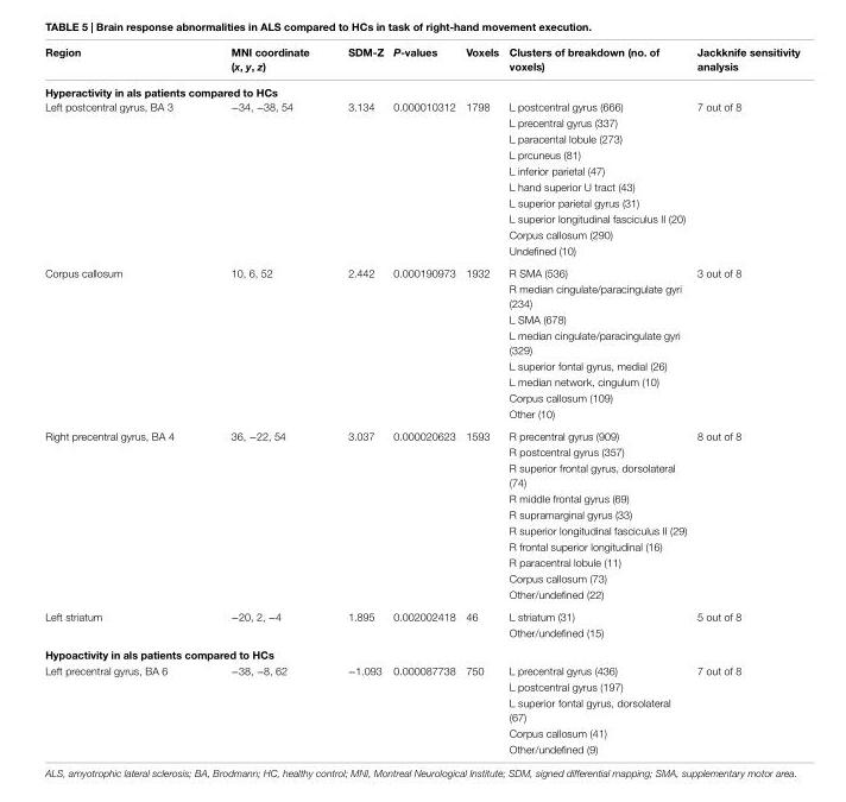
<table><thead><tr><td>region</td><td>Mni coordinate (x, y, z)</td><td>sDM-Z</td><td>P-values</td><td>Voxels</td><td>clusters of breakdown (no. of voxels)</td><td>Jackknife sensitivity analysis</td></tr></thead><tbody><tr><td colspan="7">hyperactivity in als patients compared to hcs</td></tr><tr><td rowspan="10">Left postcentral gyrus, BA 3</td><td>−34, −38, 54</td><td>3.134</td><td>0.000010312</td><td>1798</td><td>L postcentral gyrus (666)</td><td>7 out of 8</td></tr><tr><td></td><td></td><td></td><td></td><td>L precentral gyrus (337)</td><td></td></tr><tr><td></td><td></td><td></td><td></td><td>L paracental lobule (273)</td><td></td></tr><tr><td></td><td></td><td></td><td></td><td>L prcuneus (81)</td><td></td></tr><tr><td></td><td></td><td></td><td></td><td>L inferior parietal (47)</td><td></td></tr><tr><td></td><td></td><td></td><td></td><td>L hand superior U tract (43)</td><td></td></tr><tr><td></td><td></td><td></td><td></td><td>L superior parietal gyrus (31)</td><td></td></tr><tr><td></td><td></td><td></td><td></td><td>L superior longitudinal fasciculus II (20)</td><td></td></tr><tr><td></td><td></td><td></td><td></td><td>Corpus callosum (290)</td><td></td></tr><tr><td></td><td></td><td></td><td></td><td>Undefined (10)</td><td></td></tr><tr><td rowspan="8">Corpus callosum</td><td>10, 6, 52</td><td>2.442</td><td>0.000190973</td><td>1932</td><td>R SMA (536)</td><td>3 out of 8</td></tr><tr><td></td><td></td><td></td><td></td><td>R median cingulate/paracingulate gyri (234)</td><td></td></tr><tr><td></td><td></td><td></td><td></td><td>L SMA (678)</td><td></td></tr><tr><td></td><td></td><td></td><td></td><td>L median cingulate/paracingulate gyri (329)</td><td></td></tr><tr><td></td><td></td><td></td><td></td><td>L superior fontal gyrus, medial (26)</td><td></td></tr><tr><td></td><td></td><td></td><td></td><td>L median network, cingulum (10)</td><td></td></tr><tr><td></td><td></td><td></td><td></td><td>Corpus callosum (109)</td><td></td></tr><tr><td></td><td></td><td></td><td></td><td>Other (10)</td><td></td></tr><tr><td rowspan="10">Right precentral gyrus, BA 4</td><td>36, −22, 54</td><td>3.037</td><td>0.000020623</td><td>1593</td><td>R precentral gyrus (909)</td><td>8 out of 8</td></tr><tr><td></td><td></td><td></td><td></td><td>R postcentral gyrus (357)</td><td></td></tr><tr><td></td><td></td><td></td><td></td><td>R superior frontal gyrus, dorsolateral (74)</td><td></td></tr><tr><td></td><td></td><td></td><td></td><td>R middle frontal gyrus (69)</td><td></td></tr><tr><td></td><td></td><td></td><td></td><td>R supramarginal gyrus (33)</td><td></td></tr><tr><td></td><td></td><td></td><td></td><td>R superior longitudinal fasciculus II (29)</td><td></td></tr><tr><td></td><td></td><td></td><td></td><td>R frontal superior longitudinal (16)</td><td></td></tr><tr><td></td><td></td><td></td><td></td><td>R paracentral lobule (11)</td><td></td></tr><tr><td></td><td></td><td></td><td></td><td>Corpus callosum (73)</td><td></td></tr><tr><td></td><td></td><td></td><td></td><td>Other/undefined (22)</td><td></td></tr><tr><td rowspan="2">Left striatum</td><td>−20, 2, −4</td><td>1.895</td><td>0.002002418</td><td>46</td><td>L striatum (31)</td><td>5 out of 8</td></tr><tr><td></td><td></td><td></td><td></td><td>Other/undefined (15)</td><td></td></tr><tr><td colspan="7">hypoactivity in als patients compared to hcs</td></tr><tr><td rowspan="5">Left precentral gyrus, BA 6</td><td>−38, −8, 62</td><td>−1.093</td><td>0.000087738</td><td>750</td><td>L precentral gyrus (436)</td><td>7 out of 8</td></tr><tr><td></td><td></td><td></td><td></td><td>L postcentral gyrus (197)</td><td></td></tr><tr><td></td><td></td><td></td><td></td><td>L superior fontal gyrus, dorsolateral (67)</td><td></td></tr><tr><td></td><td></td><td></td><td></td><td>Corpus callosum (41)</td><td></td></tr><tr><td></td><td></td><td></td><td></td><td>Other/undefined (9)</td><td></td></tr></tbody></table>